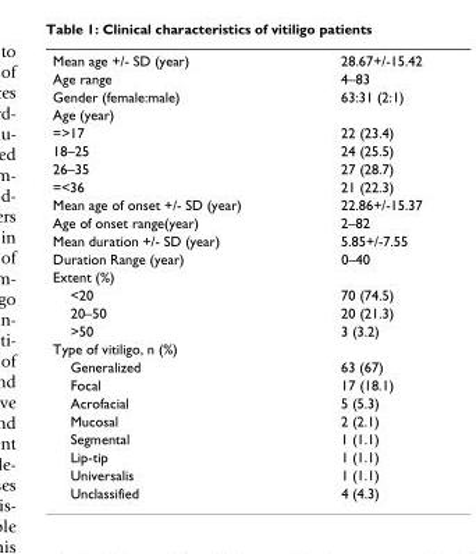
<table><tbody><tr><td>Mean age +/- SD (year)</td><td>28.67+/-15.42</td></tr><tr><td>Age range</td><td>4–83</td></tr><tr><td>Gender (female:male)</td><td>63:31 (2:1)</td></tr><tr><td colspan="2">Age (year)</td></tr><tr><td>=&gt;17</td><td>22 (23.4)</td></tr><tr><td>18–25</td><td>24 (25.5)</td></tr><tr><td>26–35</td><td>27 (28.7)</td></tr><tr><td>=&lt;36</td><td>21 (22.3)</td></tr><tr><td>Mean age of onset +/- SD (year)</td><td>22.86+/-15.37</td></tr><tr><td>Age of onset range(year)</td><td>2–82</td></tr><tr><td>Mean duration +/- SD (year)</td><td>5.85+/-7.55</td></tr><tr><td>Duration Range (year)</td><td>0–40</td></tr><tr><td colspan="2">Extent (%)</td></tr><tr><td>&lt;20</td><td>70 (74.5)</td></tr><tr><td>20–50</td><td>20 (21.3)</td></tr><tr><td>&gt;50</td><td>3 (3.2)</td></tr><tr><td colspan="2">Type of vitiligo, n (%)</td></tr><tr><td>Generalized</td><td>63 (67)</td></tr><tr><td>Focal</td><td>17 (18.1)</td></tr><tr><td>Acrofacial</td><td>5 (5.3)</td></tr><tr><td>Mucosal</td><td>2 (2.1)</td></tr><tr><td>Segmental</td><td>1 (1.1)</td></tr><tr><td>Lip-tip</td><td>1 (1.1)</td></tr><tr><td>Universalis</td><td>1 (1.1)</td></tr><tr><td>Unclassified</td><td>4 (4.3)</td></tr></tbody></table>